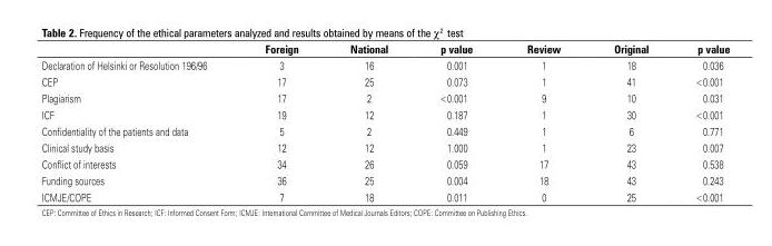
<table><thead><tr><td></td><td>Foreign</td><td>National</td><td>p value</td><td>Review</td><td>Original</td><td>p value</td></tr></thead><tbody><tr><td>Declaration of Helsinki or Resolution 196/96</td><td>3</td><td>16</td><td>0.001</td><td>1</td><td>18</td><td>0.036</td></tr><tr><td>CEP</td><td>17</td><td>25</td><td>0.073</td><td>1</td><td>41</td><td>&lt;0.001</td></tr><tr><td>Plagiarism</td><td>17</td><td>2</td><td>&lt;0.001</td><td>9</td><td>10</td><td>0.031</td></tr><tr><td>ICF</td><td>19</td><td>12</td><td>0.187</td><td>1</td><td>30</td><td>&lt;0.001</td></tr><tr><td>Confidentiality of the patients and data</td><td>5</td><td>2</td><td>0.449</td><td>1</td><td>6</td><td>0.771</td></tr><tr><td>Clinical study basis</td><td>12</td><td>12</td><td>1.000</td><td>1</td><td>23</td><td>0.007</td></tr><tr><td>Conflict of interests</td><td>34</td><td>26</td><td>0.059</td><td>17</td><td>43</td><td>0.538</td></tr><tr><td>Funding sources</td><td>36</td><td>25</td><td>0.004</td><td>18</td><td>43</td><td>0.243</td></tr><tr><td>ICMJE/COPE</td><td>7</td><td>18</td><td>0.011</td><td>0</td><td>25</td><td>&lt;0.001</td></tr></tbody></table>